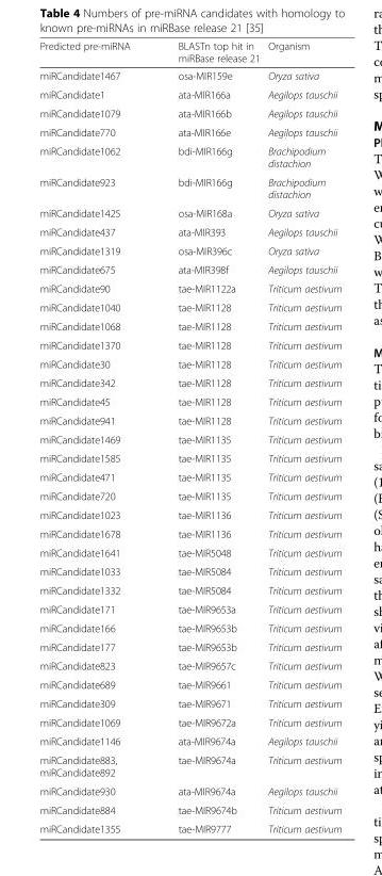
<table><thead><tr><td>Predicted pre-miRNA</td><td>BLASTn top hit in miRBase release 21</td><td>Organism</td></tr></thead><tbody><tr><td>miRCandidate1467</td><td>osa-MIR159e</td><td>Oryza sativa</td></tr><tr><td>miRCandidate1</td><td>ata-MIR166a</td><td>Aegilops tauschii</td></tr><tr><td>miRCandidate1079</td><td>ata-MIR166b</td><td>Aegilops tauschii</td></tr><tr><td>miRCandidate770</td><td>ata-MIR166e</td><td>Aegilops tauschii</td></tr><tr><td>miRCandidate1062</td><td>bdi-MIR166g</td><td>Brachipodium distachion</td></tr><tr><td>miRCandidate923</td><td>bdi-MIR166g</td><td>Brachipodium distachion</td></tr><tr><td>miRCandidate1425</td><td>osa-MIR168a</td><td>Oryza sativa</td></tr><tr><td>miRCandidate437</td><td>ata-MIR393</td><td>Aegilops tauschii</td></tr><tr><td>miRCandidate1319</td><td>osa-MIR396c</td><td>Oryza sativa</td></tr><tr><td>miRCandidate675</td><td>ata-MIR398f</td><td>Aegilops tauschii</td></tr><tr><td>miRCandidate90</td><td>tae-MIR1122a</td><td>Triticum aestivum</td></tr><tr><td>miRCandidate1040</td><td>tae-MIR1128</td><td>Triticum aestivum</td></tr><tr><td>miRCandidate1068</td><td>tae-MIR1128</td><td>Triticum aestivum</td></tr><tr><td>miRCandidate1370</td><td>tae-MIR1128</td><td>Triticum aestivum</td></tr><tr><td>miRCandidate30</td><td>tae-MIR1128</td><td>Triticum aestivum</td></tr><tr><td>miRCandidate342</td><td>tae-MIR1128</td><td>Triticum aestivum</td></tr><tr><td>miRCandidate45</td><td>tae-MIR1128</td><td>Triticum aestivum</td></tr><tr><td>miRCandidate941</td><td>tae-MIR1128</td><td>Triticum aestivum</td></tr><tr><td>miRCandidate1469</td><td>tae-MIR1135</td><td>Triticum aestivum</td></tr><tr><td>miRCandidate1585</td><td>tae-MIR1135</td><td>Triticum aestivum</td></tr><tr><td>miRCandidate471</td><td>tae-MIR1135</td><td>Triticum aestivum</td></tr><tr><td>miRCandidate720</td><td>tae-MIR1135</td><td>Triticum aestivum</td></tr><tr><td>miRCandidate1023</td><td>tae-MIR1136</td><td>Triticum aestivum</td></tr><tr><td>miRCandidate1678</td><td>tae-MIR1136</td><td>Triticum aestivum</td></tr><tr><td>miRCandidate1641</td><td>tae-MIR5048</td><td>Triticum aestivum</td></tr><tr><td>miRCandidate1033</td><td>tae-MIR5084</td><td>Triticum aestivum</td></tr><tr><td>miRCandidate1332</td><td>tae-MIR5084</td><td>Triticum aestivum</td></tr><tr><td>miRCandidate171</td><td>tae-MIR9653a</td><td>Triticum aestivum</td></tr><tr><td>miRCandidate166</td><td>tae-MIR9653b</td><td>Triticum aestivum</td></tr><tr><td>miRCandidate177</td><td>tae-MIR9653b</td><td>Triticum aestivum</td></tr><tr><td>miRCandidate823</td><td>tae-MIR9657c</td><td>Triticum aestivum</td></tr><tr><td>miRCandidate689</td><td>tae-MIR9661</td><td>Triticum aestivum</td></tr><tr><td>miRCandidate309</td><td>tae-MIR9671</td><td>Triticum aestivum</td></tr><tr><td>miRCandidate1069</td><td>tae-MIR9672a</td><td>Triticum aestivum</td></tr><tr><td>miRCandidate1146</td><td>ata-MIR9674a</td><td>Aegilops tauschii</td></tr><tr><td>miRCandidate883, miRCandidate892</td><td>tae-MIR9674a</td><td>Triticum aestivum</td></tr><tr><td>miRCandidate930</td><td>ata-MIR9674a</td><td>Aegilops tauschii</td></tr><tr><td>miRCandidate884</td><td>tae-MIR9674b</td><td>Triticum aestivum</td></tr><tr><td>miRCandidate1355</td><td>tae-MIR9777</td><td>Triticum aestivum</td></tr></tbody></table>